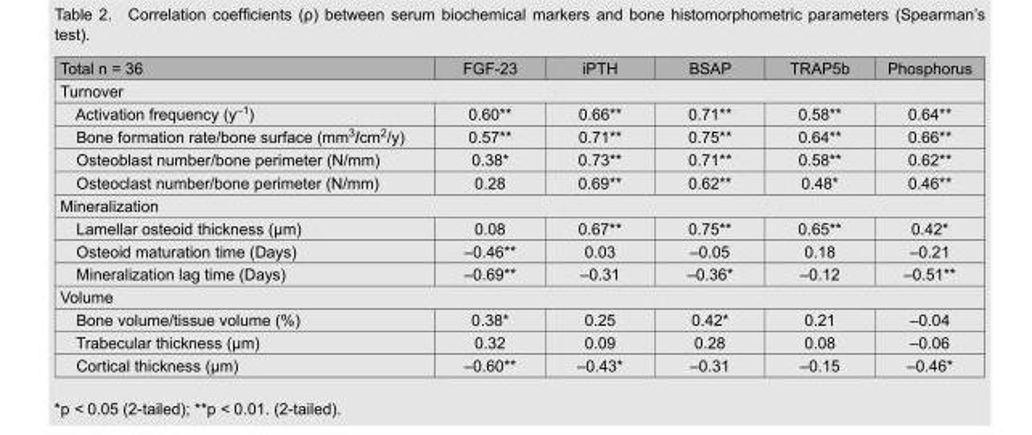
<table><thead><tr><td>Total n = 36</td><td>FGF-23</td><td>iPTH</td><td>BSAP</td><td>TRAP5b</td><td>Phosphorus</td></tr></thead><tbody><tr><td colspan="6">Turnover</td></tr><tr><td>Activation frequency (y<sup>–1</sup>)</td><td>0.60**</td><td>0.66**</td><td>0.71**</td><td>0.58**</td><td>0.64**</td></tr><tr><td>Bone formation rate/bone surface (mm<sup>3</sup>/cm<sup>2</sup>/y)</td><td>0.57**</td><td>0.71**</td><td>0.75**</td><td>0.64**</td><td>0.66**</td></tr><tr><td>Osteoblast number/bone perimeter (N/mm)</td><td>0.38*</td><td>0.73**</td><td>0.71**</td><td>0.58**</td><td>0.62**</td></tr><tr><td>Osteoclast number/bone perimeter (N/mm)</td><td>0.28</td><td>0.69**</td><td>0.62**</td><td>0.48*</td><td>0.46**</td></tr><tr><td colspan="6">Mineralization</td></tr><tr><td>Lamellar osteoid thickness (µm)</td><td>0.08</td><td>0.67**</td><td>0.75**</td><td>0.65**</td><td>0.42*</td></tr><tr><td>Osteoid maturation time (Days)</td><td>–0.46**</td><td>0.03</td><td>–0.05</td><td>0.18</td><td>–0.21</td></tr><tr><td>Mineralization lag time (Days)</td><td>–0.69**</td><td>–0.31</td><td>–0.36*</td><td>–0.12</td><td>–0.51**</td></tr><tr><td colspan="6">Volume</td></tr><tr><td>Bone volume/tissue volume (%)</td><td>0.38*</td><td>0.25</td><td>0.42*</td><td>0.21</td><td>–0.04</td></tr><tr><td>Trabecular thickness (µm)</td><td>0.32</td><td>0.09</td><td>0.28</td><td>0.08</td><td>–0.06</td></tr><tr><td>Cortical thickness (µm)</td><td>–0.60**</td><td>–0.43*</td><td>–0.31</td><td>–0.15</td><td>–0.46*</td></tr></tbody></table>